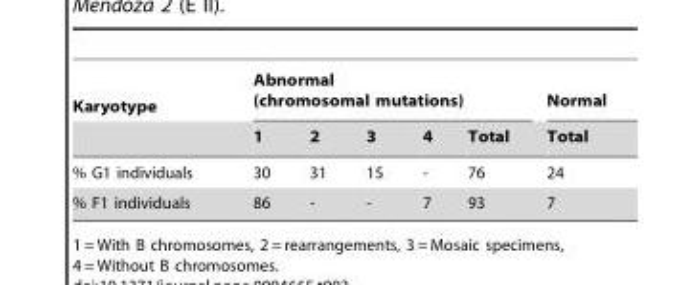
<table><thead><tr><td rowspan="2">Karyotype</td><td colspan="5">Abnormal (chromosomal mutations)</td><td rowspan="2">Normal Total</td></tr><tr><td>1</td><td>2</td><td>3</td><td>4</td><td>Total</td></tr></thead><tbody><tr><td>% G1 individuals</td><td>30</td><td>31</td><td>15</td><td>-</td><td>76</td><td>24</td></tr><tr><td>% F1 individuals</td><td>86</td><td>-</td><td>-</td><td>7</td><td>93</td><td>7</td></tr></tbody></table>